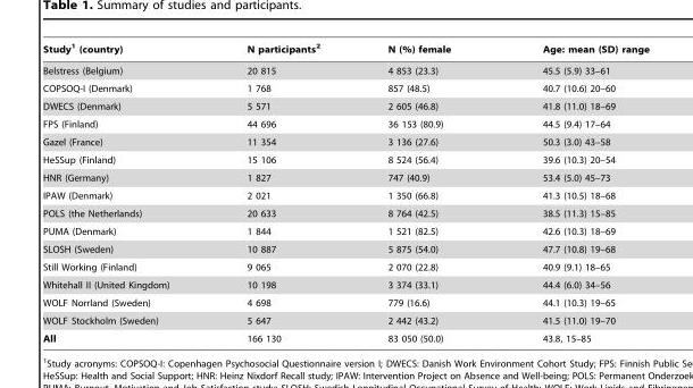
<table><thead><tr><td>Study<sup>1</sup> (country)</td><td>N participants<sup>2</sup></td><td>N (%) female</td><td>Age: mean (SD) range</td></tr></thead><tbody><tr><td>Belstress (Belgium)</td><td>20 815</td><td>4 853 (23.3)</td><td>45.5 (5.9) 33–61</td></tr><tr><td>COPSOQ-I (Denmark)</td><td>1 768</td><td>857 (48.5)</td><td>40.7 (10.6) 20–60</td></tr><tr><td>DWECS (Denmark)</td><td>5 571</td><td>2 605 (46.8)</td><td>41.8 (11.0) 18–69</td></tr><tr><td>FPS (Finland)</td><td>44 696</td><td>36 153 (80.9)</td><td>44.5 (9.4) 17–64</td></tr><tr><td>Gazel (France)</td><td>11 354</td><td>3 136 (27.6)</td><td>50.3 (3.0) 43–58</td></tr><tr><td>HeSSup (Finland)</td><td>15 106</td><td>8 524 (56.4)</td><td>39.6 (10.3) 20–54</td></tr><tr><td>HNR (Germany)</td><td>1 827</td><td>747 (40.9)</td><td>53.4 (5.0) 45–73</td></tr><tr><td>IPAW (Denmark)</td><td>2 021</td><td>1 350 (66.8)</td><td>41.3 (10.5) 18–68</td></tr><tr><td>POLS (the Netherlands)</td><td>20 633</td><td>8 764 (42.5)</td><td>38.5 (11.3) 15–85</td></tr><tr><td>PUMA (Denmark)</td><td>1 844</td><td>1 521 (82.5)</td><td>42.6 (10.3) 18–69</td></tr><tr><td>SLOSH (Sweden)</td><td>10 887</td><td>5 875 (54.0)</td><td>47.7 (10.8) 19–68</td></tr><tr><td>Still Working (Finland)</td><td>9 065</td><td>2 070 (22.8)</td><td>40.9 (9.1) 18–65</td></tr><tr><td>Whitehall II (United Kingdom)</td><td>10 198</td><td>3 374 (33.1)</td><td>44.4 (6.0) 34–56</td></tr><tr><td>WOLF Norrland (Sweden)</td><td>4 698</td><td>779 (16.6)</td><td>44.1 (10.3) 19–65</td></tr><tr><td>WOLF Stockholm (Sweden)</td><td>5 647</td><td>2 442 (43.2)</td><td>41.5 (11.0) 19–70</td></tr><tr><td>All</td><td>166 130</td><td>83 050 (50.0)</td><td>43.8, 15–85</td></tr></tbody></table>